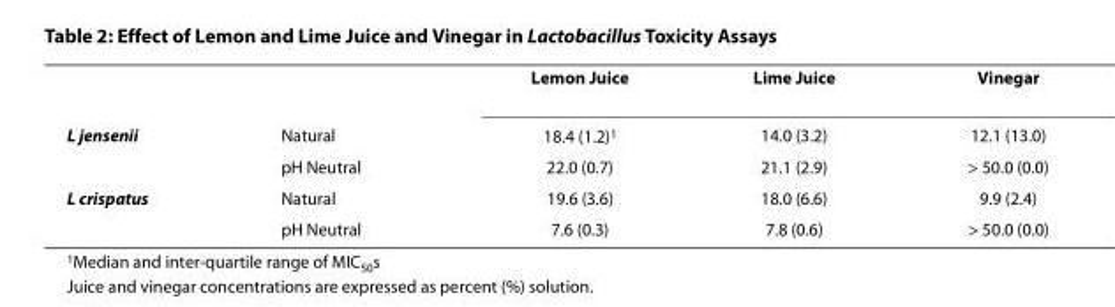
<table><thead><tr><td></td><td></td><td>Lemon Juice</td><td>Lime Juice</td><td>Vinegar</td></tr></thead><tbody><tr><td rowspan="2">L jensenii</td><td>Natural</td><td>18.4 (1.2)<sup>1</sup></td><td>14.0 (3.2)</td><td>12.1 (13.0)</td></tr><tr><td>pH Neutral</td><td>22.0 (0.7)</td><td>21.1 (2.9)</td><td>&gt; 50.0 (0.0)</td></tr><tr><td rowspan="2">L crispatus</td><td>Natural</td><td>19.6 (3.6)</td><td>18.0 (6.6)</td><td>9.9 (2.4)</td></tr><tr><td>pH Neutral</td><td>7.6 (0.3)</td><td>7.8 (0.6)</td><td>&gt; 50.0 (0.0)</td></tr></tbody></table>